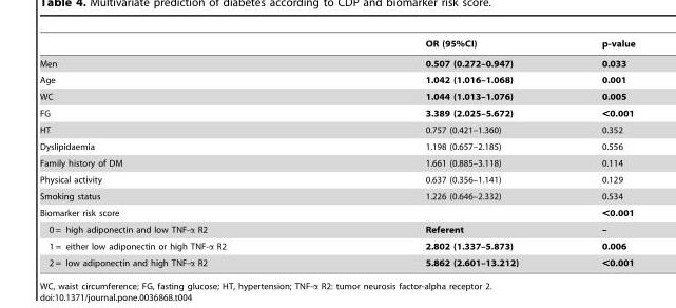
<table><thead><tr><td></td><td>OR (95%CI)</td><td>p-value</td></tr></thead><tbody><tr><td>Men</td><td>0.507 (0.272–0.947)</td><td>0.033</td></tr><tr><td>Age</td><td>1.042 (1.016–1.068)</td><td>0.001</td></tr><tr><td>WC</td><td>1.044 (1.013–1.076)</td><td>0.005</td></tr><tr><td>FG</td><td>3.389 (2.025–5.672)</td><td>&lt;0.001</td></tr><tr><td>HT</td><td>0.757 (0.421–1.360)</td><td>0.352</td></tr><tr><td>Dyslipidaemia</td><td>1.198 (0.657–2.185)</td><td>0.556</td></tr><tr><td>Family history of DM</td><td>1.661 (0.885–3.118)</td><td>0.114</td></tr><tr><td>Physical activity</td><td>0.637 (0.356–1.141)</td><td>0.129</td></tr><tr><td>Smoking status</td><td>1.226 (0.646–2.332)</td><td>0.534</td></tr><tr><td>Biomarker risk score</td><td></td><td>&lt;0.001</td></tr><tr><td>0 = high adiponectin and low TNF-α R2</td><td>Referent</td><td>–</td></tr><tr><td>1 = either low adiponectin or high TNF-α R2</td><td>2.802 (1.337–5.873)</td><td>0.006</td></tr><tr><td>2 = low adiponectin and high TNF-α R2</td><td>5.862 (2.601–13.212)</td><td>&lt;0.001</td></tr></tbody></table>